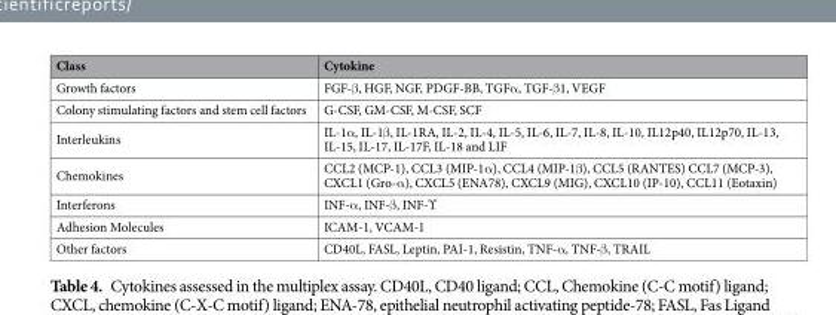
<table><thead><tr><td>Class</td><td>Cytokine</td></tr></thead><tbody><tr><td>Growth factors</td><td>FGF-β, HGF, NGF, PDGF-BB, TGFα, TGF-β1, VEGF</td></tr><tr><td>Colony stimulating factors and stem cell factors</td><td>G-CSF, GM-CSF, M-CSF, SCF</td></tr><tr><td>Interleukins</td><td>IL-1α, IL-1β, IL-1RA, IL-2, IL-4, IL-5, IL-6, IL-7, IL-8, IL-10, IL12p40, IL12p70, IL-13, IL-15, IL-17, IL-17F, IL-18 and LIF</td></tr><tr><td>Chemokines</td><td>CCL2 (MCP-1), CCL3 (MIP-1α), CCL4 (MIP-1β), CCL5 (RANTES) CCL7 (MCP-3), CXCL1 (Gro-α), CXCL5 (ENA78), CXCL9 (MIG), CXCL10 (IP-10), CCL11 (Eotaxin)</td></tr><tr><td>Interferons</td><td>INF-α, INF-β, INF-ϒ</td></tr><tr><td>Adhesion Molecules</td><td>ICAM-1, VCAM-1</td></tr><tr><td>Other factors</td><td>CD40L, FASL, Leptin, PAI-1, Resistin, TNF-α, TNF-β, TRAIL</td></tr></tbody></table>